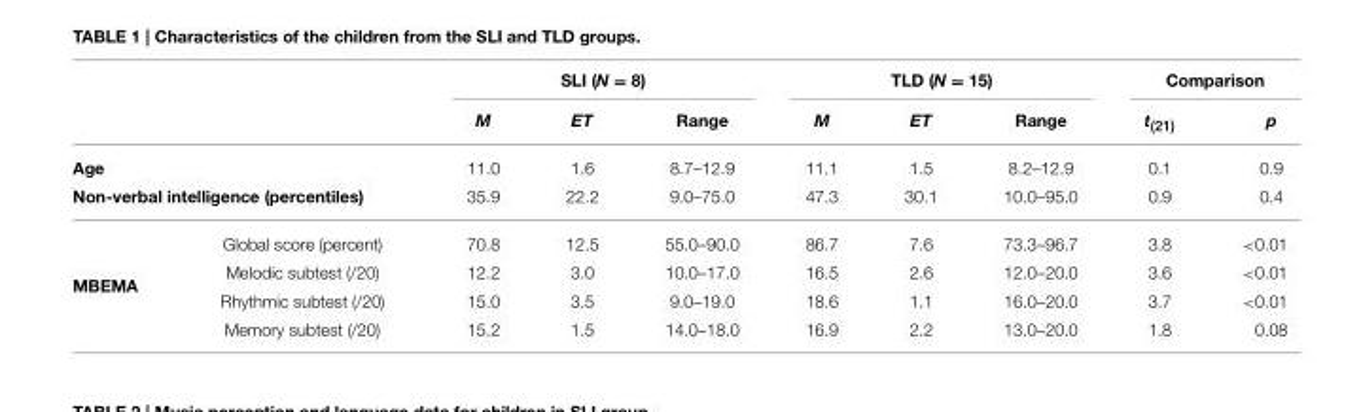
<table><thead><tr><td rowspan="2"></td><td rowspan="2"></td><td colspan="3">SLI (N = 8)</td><td colspan="3">TLD (N = 15)</td><td colspan="2">Comparison</td></tr><tr><td>M</td><td>ET</td><td>Range</td><td>M</td><td>ET</td><td>Range</td><td>t<sub>(21)</sub></td><td>p</td></tr></thead><tbody><tr><td colspan="2">Age</td><td>11.0</td><td>1.6</td><td>8.7–12.9</td><td>11.1</td><td>1.5</td><td>8.2–12.9</td><td>0.1</td><td>0.9</td></tr><tr><td colspan="2">Non-verbal intelligence (percentiles)</td><td>35.9</td><td>22.2</td><td>9.0–75.0</td><td>47.3</td><td>30.1</td><td>10.0–95.0</td><td>0.9</td><td>0.4</td></tr><tr><td rowspan="4">MBEMA</td><td>Global score (percent)</td><td>70.8</td><td>12.5</td><td>55.0–90.0</td><td>86.7</td><td>7.6</td><td>73.3–96.7</td><td>3.8</td><td>&lt;0.01</td></tr><tr><td>Melodic subtest (/20)</td><td>12.2</td><td>3.0</td><td>10.0–17.0</td><td>16.5</td><td>2.6</td><td>12.0–20.0</td><td>3.6</td><td>&lt;0.01</td></tr><tr><td>Rhythmic subtest (/20)</td><td>15.0</td><td>3.5</td><td>9.0–19.0</td><td>18.6</td><td>1.1</td><td>16.0–20.0</td><td>3.7</td><td>&lt;0.01</td></tr><tr><td>Memory subtest (/20)</td><td>15.2</td><td>1.5</td><td>14.0–18.0</td><td>16.9</td><td>2.2</td><td>13.0–20.0</td><td>1.8</td><td>0.08</td></tr></tbody></table>